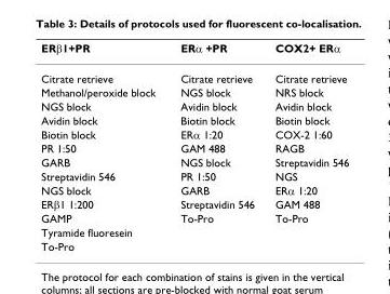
<table><thead><tr><td>ERβ1+PR</td><td>ERα +PR</td><td>COX2+ ERα</td></tr></thead><tbody><tr><td>Citrate retrieve</td><td>Citrate retrieve</td><td>Citrate retrieve</td></tr><tr><td>Methanol/peroxide block</td><td>NGS block</td><td>NRS block</td></tr><tr><td>NGS block</td><td>Avidin block</td><td>Avidin block</td></tr><tr><td>Avidin block</td><td>Biotin block</td><td>Biotin block</td></tr><tr><td>Biotin block</td><td>ERα 1:20</td><td>COX-2 1:60</td></tr><tr><td>PR 1:50</td><td>GAM 488</td><td>RAGB</td></tr><tr><td>GARB</td><td>NGS block</td><td>Streptavidin 546</td></tr><tr><td>Streptavidin 546</td><td>PR 1:50</td><td>NGS</td></tr><tr><td>NGS block</td><td>GARB</td><td>ERα 1:20</td></tr><tr><td>ERβ1 1:200</td><td>Streptavidin 546</td><td>GAM 488</td></tr><tr><td>GAMP</td><td>To-Pro</td><td>To-Pro</td></tr><tr><td colspan="3">Tyramide fluoresein</td></tr><tr><td>To-Pro</td><td></td><td></td></tr></tbody></table>